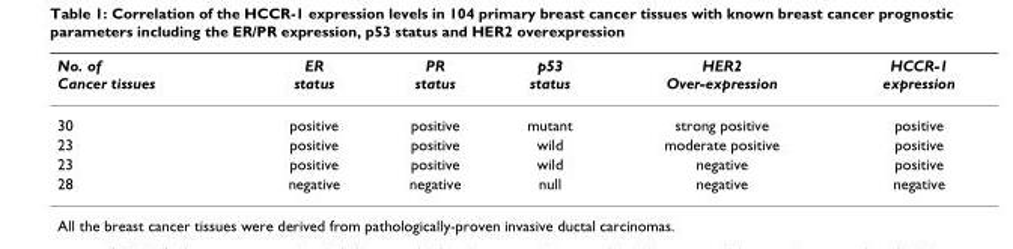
<table><thead><tr><td>No. of Cancer tissues</td><td>ER status</td><td>PR status</td><td>p53 status</td><td>HER2 Over-expression</td><td>HCCR-1 expression</td></tr></thead><tbody><tr><td>30</td><td>positive</td><td>positive</td><td>mutant</td><td>strong positive</td><td>positive</td></tr><tr><td>23</td><td>positive</td><td>positive</td><td>wild</td><td>moderate positive</td><td>positive</td></tr><tr><td>23</td><td>positive</td><td>positive</td><td>wild</td><td>negative</td><td>positive</td></tr><tr><td>28</td><td>negative</td><td>negative</td><td>null</td><td>negative</td><td>negative</td></tr></tbody></table>